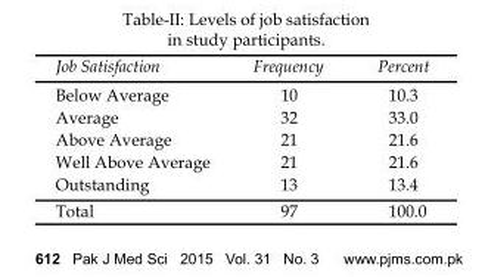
<table><thead><tr><td>Job Satisfaction</td><td>Frequency</td><td>Percent</td></tr></thead><tbody><tr><td>Below Average</td><td>10</td><td>10.3</td></tr><tr><td>Average</td><td>32</td><td>33.0</td></tr><tr><td>Above Average</td><td>21</td><td>21.6</td></tr><tr><td>Well Above Average</td><td>21</td><td>21.6</td></tr><tr><td>Outstanding</td><td>13</td><td>13.4</td></tr><tr><td>Total</td><td>97</td><td>100.0</td></tr></tbody></table>